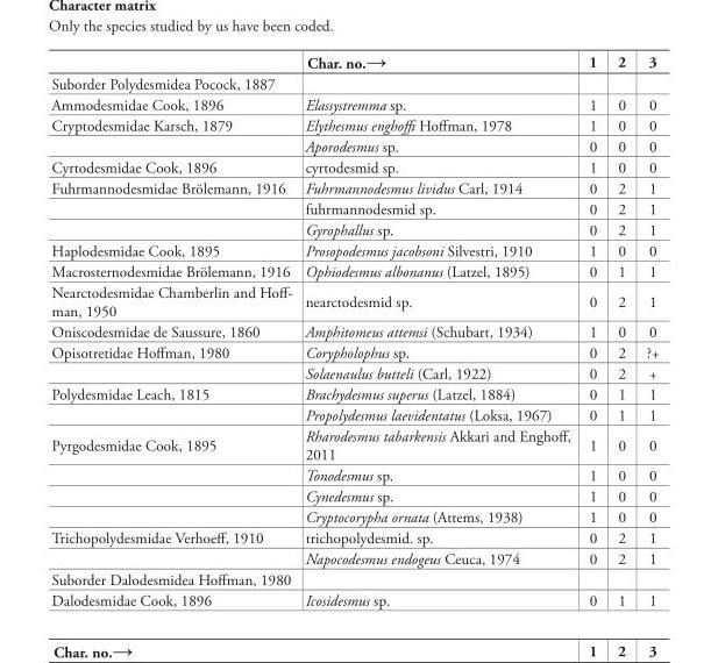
<table><thead><tr><td></td><td>Char. no.→</td><td>1</td><td>2</td><td>3</td></tr></thead><tbody><tr><td colspan="5">Suborder Polydesmidea Pocock, 1887</td></tr><tr><td>Ammodesmidae Cook, 1896</td><td>Elassystremma sp.</td><td>1</td><td>0</td><td>0</td></tr><tr><td rowspan="2">Cryptodesmidae Karsch, 1879</td><td>Elythesmus enghoffi Hoffman, 1978</td><td>1</td><td>0</td><td>0</td></tr><tr><td>Aporodesmus sp.</td><td>0</td><td>0</td><td>0</td></tr><tr><td>Cyrtodesmidae Cook, 1896</td><td>cyrtodesmid sp.</td><td>1</td><td>0</td><td>0</td></tr><tr><td rowspan="3">Fuhrmannodesmidae Brölemann, 1916</td><td>Fuhrmannodesmus lividus Carl, 1914</td><td>0</td><td>2</td><td>1</td></tr><tr><td>fuhrmannodesmid sp.</td><td>0</td><td>2</td><td>1</td></tr><tr><td>Gyrophallus sp.</td><td>0</td><td>2</td><td>1</td></tr><tr><td>Haplodesmidae Cook, 1895</td><td>Prosopodesmus jacobsoni Silvestri, 1910</td><td>1</td><td>0</td><td>0</td></tr><tr><td>Macrosternodesmidae Brölemann, 1916</td><td>Ophiodesmus albonanus (Latzel, 1895)</td><td>0</td><td>1</td><td>1</td></tr><tr><td>Nearctodesmidae Chamberlin and Hoff- man, 1950</td><td>nearctodesmid sp.</td><td>0</td><td>2</td><td>1</td></tr><tr><td>Oniscodesmidae de Saussure, 1860</td><td>Amphitomeus attemsi (Schubart, 1934)</td><td>1</td><td>0</td><td>0</td></tr><tr><td rowspan="2">Opisotretidae Hoffman, 1980</td><td>Corypholophus sp.</td><td>0</td><td>2</td><td>?+</td></tr><tr><td>Solaenaulus butteli (Carl, 1922)</td><td>0</td><td>2</td><td>+</td></tr><tr><td rowspan="2">Polydesmidae Leach, 1815</td><td>Brachydesmus superus (Latzel, 1884)</td><td>0</td><td>1</td><td>1</td></tr><tr><td>Propolydesmus laevidentatus (Loksa, 1967)</td><td>0</td><td>1</td><td>1</td></tr><tr><td rowspan="4">Pyrgodesmidae Cook, 1895</td><td>Rharodesmus tabarkensis Akkari and Enghoff, 2011</td><td>1</td><td>0</td><td>0</td></tr><tr><td>Tonodesmus sp.</td><td>1</td><td>0</td><td>0</td></tr><tr><td>Cynedesmus sp.</td><td>1</td><td>0</td><td>0</td></tr><tr><td>Cryptocorypha ornata (Attems, 1938)</td><td>1</td><td>0</td><td>0</td></tr><tr><td rowspan="2">Trichopolydesmidae Verhoeff, 1910</td><td>trichopolydesmid. sp.</td><td>0</td><td>2</td><td>1</td></tr><tr><td>Napocodesmus endogeus Ceuca, 1974</td><td>0</td><td>2</td><td>1</td></tr><tr><td colspan="5">Suborder Dalodesmidea Hoffman, 1980</td></tr><tr><td>Dalodesmidae Cook, 1896</td><td>Icosidesmus sp.</td><td>0</td><td>1</td><td>1</td></tr></tbody></table>